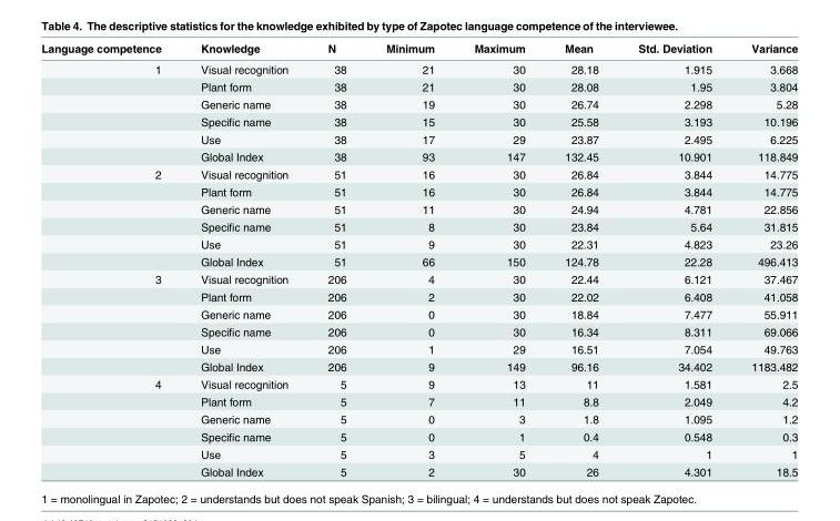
<table><thead><tr><td>Language competence</td><td>Knowledge</td><td>N</td><td>Minimum</td><td>Maximum</td><td>Mean</td><td>Std. Deviation</td><td>Variance</td></tr></thead><tbody><tr><td rowspan="6">1</td><td>Visual recognition</td><td>38</td><td>21</td><td>30</td><td>28.18</td><td>1.915</td><td>3.668</td></tr><tr><td>Plant form</td><td>38</td><td>21</td><td>30</td><td>28.08</td><td>1.95</td><td>3.804</td></tr><tr><td>Generic name</td><td>38</td><td>19</td><td>30</td><td>26.74</td><td>2.298</td><td>5.28</td></tr><tr><td>Specific name</td><td>38</td><td>15</td><td>30</td><td>25.58</td><td>3.193</td><td>10.196</td></tr><tr><td>Use</td><td>38</td><td>17</td><td>29</td><td>23.87</td><td>2.495</td><td>6.225</td></tr><tr><td>Global Index</td><td>38</td><td>93</td><td>147</td><td>132.45</td><td>10.901</td><td>118.849</td></tr><tr><td rowspan="6">2</td><td>Visual recognition</td><td>51</td><td>16</td><td>30</td><td>26.84</td><td>3.844</td><td>14.775</td></tr><tr><td>Plant form</td><td>51</td><td>16</td><td>30</td><td>26.84</td><td>3.844</td><td>14.775</td></tr><tr><td>Generic name</td><td>51</td><td>11</td><td>30</td><td>24.94</td><td>4.781</td><td>22.856</td></tr><tr><td>Specific name</td><td>51</td><td>8</td><td>30</td><td>23.84</td><td>5.64</td><td>31.815</td></tr><tr><td>Use</td><td>51</td><td>9</td><td>30</td><td>22.31</td><td>4.823</td><td>23.26</td></tr><tr><td>Global Index</td><td>51</td><td>66</td><td>150</td><td>124.78</td><td>22.28</td><td>496.413</td></tr><tr><td rowspan="6">3</td><td>Visual recognition</td><td>206</td><td>4</td><td>30</td><td>22.44</td><td>6.121</td><td>37.467</td></tr><tr><td>Plant form</td><td>206</td><td>2</td><td>30</td><td>22.02</td><td>6.408</td><td>41.058</td></tr><tr><td>Generic name</td><td>206</td><td>0</td><td>30</td><td>18.84</td><td>7.477</td><td>55.911</td></tr><tr><td>Specific name</td><td>206</td><td>0</td><td>30</td><td>16.34</td><td>8.311</td><td>69.066</td></tr><tr><td>Use</td><td>206</td><td>1</td><td>29</td><td>16.51</td><td>7.054</td><td>49.763</td></tr><tr><td>Global Index</td><td>206</td><td>9</td><td>149</td><td>96.16</td><td>34.402</td><td>1183.482</td></tr><tr><td rowspan="6">4</td><td>Visual recognition</td><td>5</td><td>9</td><td>13</td><td>11</td><td>1.581</td><td>2.5</td></tr><tr><td>Plant form</td><td>5</td><td>7</td><td>11</td><td>8.8</td><td>2.049</td><td>4.2</td></tr><tr><td>Generic name</td><td>5</td><td>0</td><td>3</td><td>1.8</td><td>1.095</td><td>1.2</td></tr><tr><td>Specific name</td><td>5</td><td>0</td><td>1</td><td>0.4</td><td>0.548</td><td>0.3</td></tr><tr><td>Use</td><td>5</td><td>3</td><td>5</td><td>4</td><td>1</td><td>1</td></tr><tr><td>Global Index</td><td>5</td><td>2</td><td>30</td><td>26</td><td>4.301</td><td>18.5</td></tr></tbody></table>